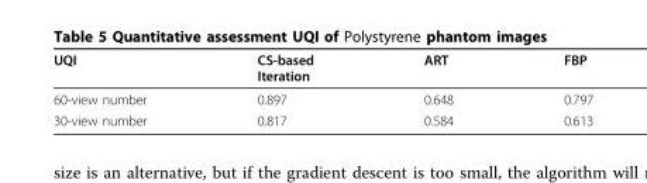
<table><thead><tr><td>UQI</td><td>CS-based Iteration</td><td>ART</td><td>FBP</td></tr></thead><tbody><tr><td>60-view number</td><td>0.897</td><td>0.648</td><td>0.797</td></tr><tr><td>30-view number</td><td>0.817</td><td>0.584</td><td>0.613</td></tr></tbody></table>